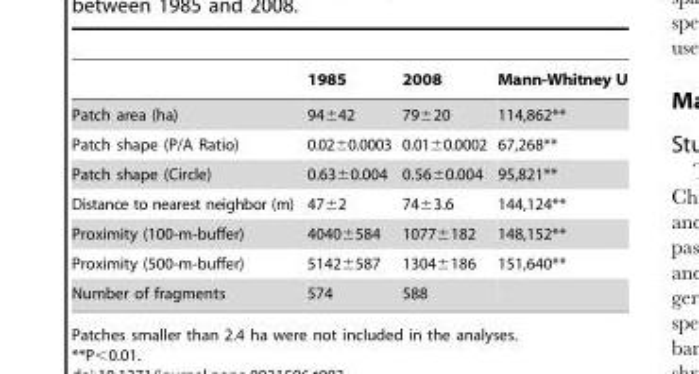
<table><thead><tr><td></td><td>1985</td><td>2008</td><td>Mann-Whitney U</td></tr></thead><tbody><tr><td>Patch area (ha)</td><td>94±42</td><td>79±20</td><td>114,862**</td></tr><tr><td>Patch shape (P/A Ratio)</td><td>0.02±0.0003</td><td>0.01±0.0002</td><td>67,268**</td></tr><tr><td>Patch shape (Circle)</td><td>0.63±0.004</td><td>0.56±0.004</td><td>95,821**</td></tr><tr><td>Distance to nearest neighbor (m)</td><td>47±2</td><td>74±3.6</td><td>144,124**</td></tr><tr><td>Proximity (100-m-buffer)</td><td>4040±584</td><td>1077±182</td><td>148,152**</td></tr><tr><td>Proximity (500-m-buffer)</td><td>5142±587</td><td>1304±186</td><td>151,640**</td></tr><tr><td>Number of fragments</td><td>574</td><td>588</td><td></td></tr></tbody></table>